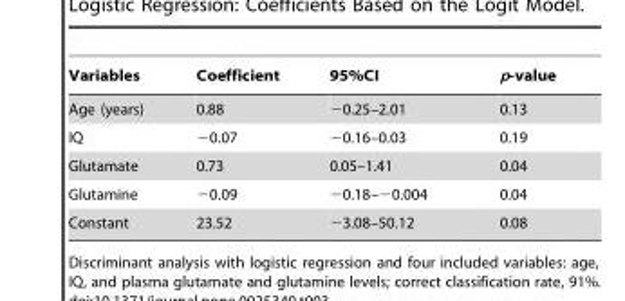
<table><thead><tr><td>Variables</td><td>Coefficient</td><td>95%CI</td><td>p-value</td></tr></thead><tbody><tr><td>Age (years)</td><td>0.88</td><td>−0.25–2.01</td><td>0.13</td></tr><tr><td>IQ</td><td>−0.07</td><td>−0.16–0.03</td><td>0.19</td></tr><tr><td>Glutamate</td><td>0.73</td><td>0.05–1.41</td><td>0.04</td></tr><tr><td>Glutamine</td><td>−0.09</td><td>−0.18–−0.004</td><td>0.04</td></tr><tr><td>Constant</td><td>23.52</td><td>−3.08–50.12</td><td>0.08</td></tr></tbody></table>